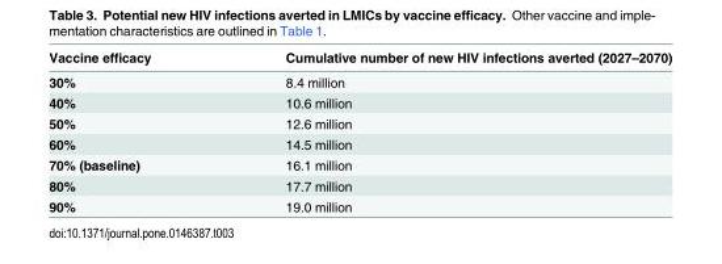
<table><thead><tr><td>Vaccine efficacy</td><td>Cumulative number of new HIV infections averted (2027–2070)</td></tr></thead><tbody><tr><td>30%</td><td>8.4 million</td></tr><tr><td>40%</td><td>10.6 million</td></tr><tr><td>50%</td><td>12.6 million</td></tr><tr><td>60%</td><td>14.5 million</td></tr><tr><td>70% (baseline)</td><td>16.1 million</td></tr><tr><td>80%</td><td>17.7 million</td></tr><tr><td>90%</td><td>19.0 million</td></tr></tbody></table>